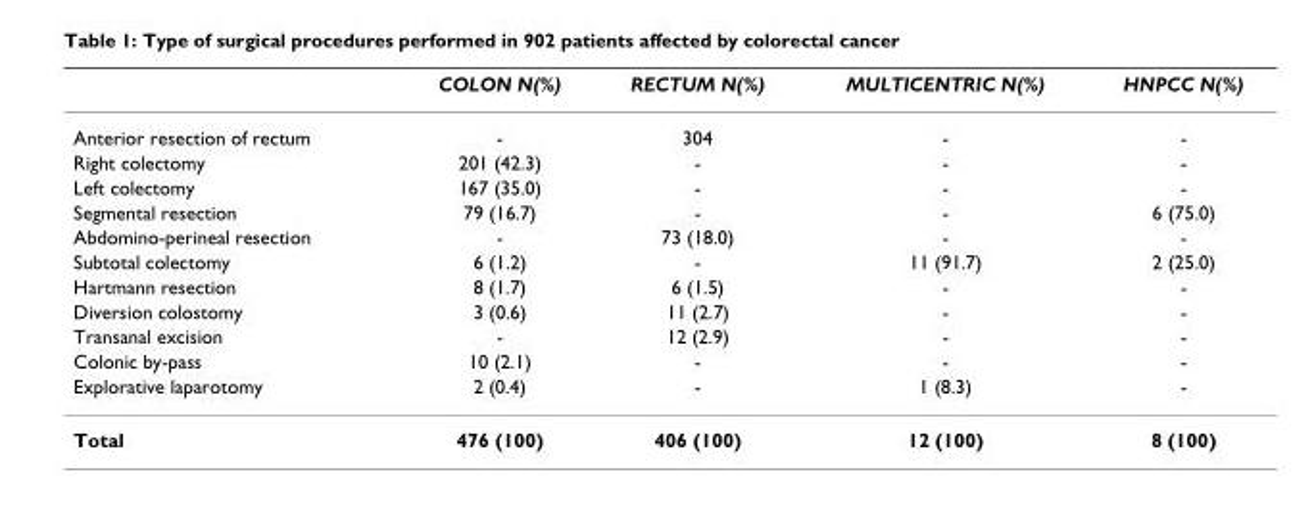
<table><thead><tr><td></td><td>COLON N(%)</td><td>RECTUM N(%)</td><td>MULTICENTRIC N(%)</td><td>HNPCC N(%)</td></tr></thead><tbody><tr><td>Anterior resection of rectum</td><td>-</td><td>304</td><td>-</td><td>-</td></tr><tr><td>Right colectomy</td><td>201 (42.3)</td><td>-</td><td>-</td><td>-</td></tr><tr><td>Left colectomy</td><td>167 (35.0)</td><td>-</td><td>-</td><td>-</td></tr><tr><td>Segmental resection</td><td>79 (16.7)</td><td>-</td><td>-</td><td>6 (75.0)</td></tr><tr><td>Abdomino-perineal resection</td><td>-</td><td>73 (18.0)</td><td>-</td><td>-</td></tr><tr><td>Subtotal colectomy</td><td>6 (1.2)</td><td>-</td><td>11 (91.7)</td><td>2 (25.0)</td></tr><tr><td>Hartmann resection</td><td>8 (1.7)</td><td>6 (1.5)</td><td>-</td><td>-</td></tr><tr><td>Diversion colostomy</td><td>3 (0.6)</td><td>11 (2.7)</td><td>-</td><td>-</td></tr><tr><td>Transanal excision</td><td>-</td><td>12 (2.9)</td><td>-</td><td>-</td></tr><tr><td>Colonic by-pass</td><td>10 (2.1)</td><td>-</td><td>-</td><td>-</td></tr><tr><td>Explorative laparotomy</td><td>2 (0.4)</td><td>-</td><td>1 (8.3)</td><td>-</td></tr><tr><td>Total</td><td>476 (100)</td><td>406 (100)</td><td>12 (100)</td><td>8 (100)</td></tr></tbody></table>